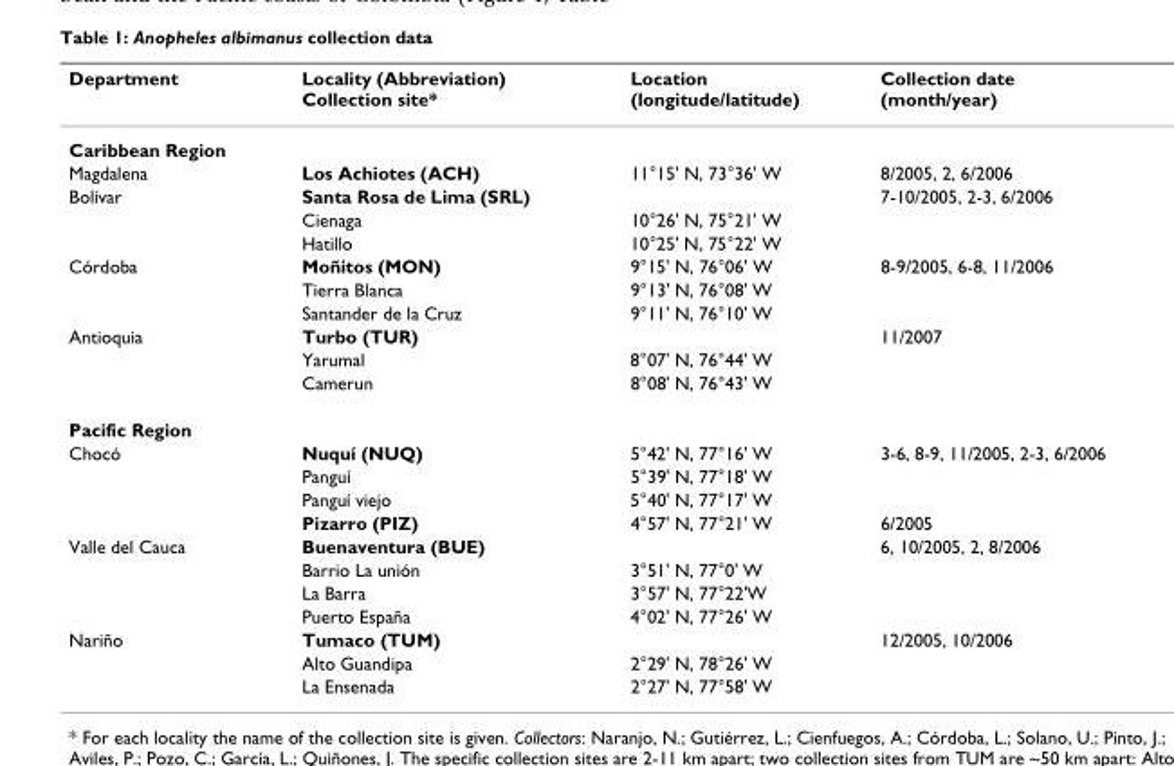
<table><thead><tr><td>Department</td><td>Locality (Abbreviation) Collection site*</td><td>Location (longitude/latitude)</td><td>Collection date (month/year)</td></tr></thead><tbody><tr><td colspan="4">Caribbean Region</td></tr><tr><td>Magdalena</td><td>Los Achiotes (ACH)</td><td>11°15&#x27; N, 73°36&#x27; W</td><td>8/2005, 2, 6/2006</td></tr><tr><td rowspan="3">Bolívar</td><td>Santa Rosa de Lima (SRL)</td><td></td><td>7-10/2005, 2-3, 6/2006</td></tr><tr><td>Cienaga</td><td>10°26&#x27; N, 75°21&#x27; W</td><td></td></tr><tr><td>Hatillo</td><td>10°25&#x27; N, 75°22&#x27; W</td><td></td></tr><tr><td rowspan="3">Córdoba</td><td>Moñitos (MON)</td><td>9°15&#x27; N, 76°06&#x27; W</td><td>8-9/2005, 6-8, 11/2006</td></tr><tr><td>Tierra Blanca</td><td>9°13&#x27; N, 76°08&#x27; W</td><td></td></tr><tr><td>Santander de la Cruz</td><td>9°11&#x27; N, 76°10&#x27; W</td><td></td></tr><tr><td rowspan="3">Antioquia</td><td>Turbo (TUR)</td><td></td><td>11/2007</td></tr><tr><td>Yarumal</td><td>8°07&#x27; N, 76°44&#x27; W</td><td></td></tr><tr><td>Camerun</td><td>8°08&#x27; N, 76°43&#x27; W</td><td></td></tr><tr><td colspan="4">Pacific Region</td></tr><tr><td rowspan="4">Chocó</td><td>Nuquí (NUQ)</td><td>5°42&#x27; N, 77°16&#x27; W</td><td>3-6, 8-9, 11/2005, 2-3, 6/2006</td></tr><tr><td>Panguí</td><td>5°39&#x27; N, 77°18&#x27; W</td><td></td></tr><tr><td>Panguí viejo</td><td>5°40&#x27; N, 77°17&#x27; W</td><td></td></tr><tr><td>Pizarro (PIZ)</td><td>4°57&#x27; N, 77°21&#x27; W</td><td>6/2005</td></tr><tr><td rowspan="4">Valle del Cauca</td><td>Buenaventura (BUE)</td><td></td><td>6, 10/2005, 2, 8/2006</td></tr><tr><td>Barrio La unión</td><td>3°51&#x27; N, 77°0&#x27; W</td><td></td></tr><tr><td>La Barra</td><td>3°57&#x27; N, 77°22&#x27;W</td><td></td></tr><tr><td>Puerto España</td><td>4°02&#x27; N, 77°26&#x27; W</td><td></td></tr><tr><td rowspan="3">Nariño</td><td>Tumaco (TUM)</td><td></td><td>12/2005, 10/2006</td></tr><tr><td>Alto Guandipa</td><td>2°29&#x27; N, 78°26&#x27; W</td><td></td></tr><tr><td>La Ensenada</td><td>2°27&#x27; N, 77°58&#x27; W</td><td></td></tr></tbody></table>